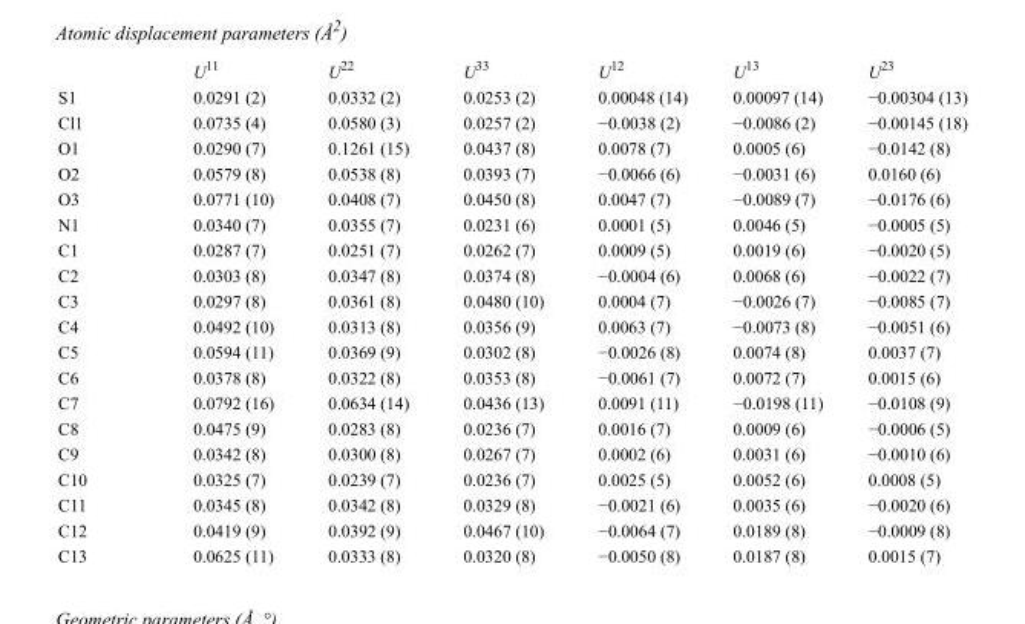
<table><thead><tr><td></td><td>U<sup>11</sup></td><td>U<sup>22</sup></td><td>U<sup>33</sup></td><td>U<sup>12</sup></td><td>U<sup>13</sup></td><td>U<sup>23</sup></td></tr></thead><tbody><tr><td>S1</td><td>0.0291 (2)</td><td>0.0332 (2)</td><td>0.0253 (2)</td><td>0.00048 (14)</td><td>0.00097 (14)</td><td>−0.00304 (13)</td></tr><tr><td>Cl1</td><td>0.0735 (4)</td><td>0.0580 (3)</td><td>0.0257 (2)</td><td>−0.0038 (2)</td><td>−0.0086 (2)</td><td>−0.00145 (18)</td></tr><tr><td>O1</td><td>0.0290 (7)</td><td>0.1261 (15)</td><td>0.0437 (8)</td><td>0.0078 (7)</td><td>0.0005 (6)</td><td>−0.0142 (8)</td></tr><tr><td>O2</td><td>0.0579 (8)</td><td>0.0538 (8)</td><td>0.0393 (7)</td><td>−0.0066 (6)</td><td>−0.0031 (6)</td><td>0.0160 (6)</td></tr><tr><td>O3</td><td>0.0771 (10)</td><td>0.0408 (7)</td><td>0.0450 (8)</td><td>0.0047 (7)</td><td>−0.0089 (7)</td><td>−0.0176 (6)</td></tr><tr><td>N1</td><td>0.0340 (7)</td><td>0.0355 (7)</td><td>0.0231 (6)</td><td>0.0001 (5)</td><td>0.0046 (5)</td><td>−0.0005 (5)</td></tr><tr><td>C1</td><td>0.0287 (7)</td><td>0.0251 (7)</td><td>0.0262 (7)</td><td>0.0009 (5)</td><td>0.0019 (6)</td><td>−0.0020 (5)</td></tr><tr><td>C2</td><td>0.0303 (8)</td><td>0.0347 (8)</td><td>0.0374 (8)</td><td>−0.0004 (6)</td><td>0.0068 (6)</td><td>−0.0022 (7)</td></tr><tr><td>C3</td><td>0.0297 (8)</td><td>0.0361 (8)</td><td>0.0480 (10)</td><td>0.0004 (7)</td><td>−0.0026 (7)</td><td>−0.0085 (7)</td></tr><tr><td>C4</td><td>0.0492 (10)</td><td>0.0313 (8)</td><td>0.0356 (9)</td><td>0.0063 (7)</td><td>−0.0073 (8)</td><td>−0.0051 (6)</td></tr><tr><td>C5</td><td>0.0594 (11)</td><td>0.0369 (9)</td><td>0.0302 (8)</td><td>−0.0026 (8)</td><td>0.0074 (8)</td><td>0.0037 (7)</td></tr><tr><td>C6</td><td>0.0378 (8)</td><td>0.0322 (8)</td><td>0.0353 (8)</td><td>−0.0061 (7)</td><td>0.0072 (7)</td><td>0.0015 (6)</td></tr><tr><td>C7</td><td>0.0792 (16)</td><td>0.0634 (14)</td><td>0.0436 (13)</td><td>0.0091 (11)</td><td>−0.0198 (11)</td><td>−0.0108 (9)</td></tr><tr><td>C8</td><td>0.0475 (9)</td><td>0.0283 (8)</td><td>0.0236 (7)</td><td>0.0016 (7)</td><td>0.0009 (6)</td><td>−0.0006 (5)</td></tr><tr><td>C9</td><td>0.0342 (8)</td><td>0.0300 (8)</td><td>0.0267 (7)</td><td>0.0002 (6)</td><td>0.0031 (6)</td><td>−0.0010 (6)</td></tr><tr><td>C10</td><td>0.0325 (7)</td><td>0.0239 (7)</td><td>0.0236 (7)</td><td>0.0025 (5)</td><td>0.0052 (6)</td><td>0.0008 (5)</td></tr><tr><td>C11</td><td>0.0345 (8)</td><td>0.0342 (8)</td><td>0.0329 (8)</td><td>−0.0021 (6)</td><td>0.0035 (6)</td><td>−0.0020 (6)</td></tr><tr><td>C12</td><td>0.0419 (9)</td><td>0.0392 (9)</td><td>0.0467 (10)</td><td>−0.0064 (7)</td><td>0.0189 (8)</td><td>−0.0009 (8)</td></tr><tr><td>C13</td><td>0.0625 (11)</td><td>0.0333 (8)</td><td>0.0320 (8)</td><td>−0.0050 (8)</td><td>0.0187 (8)</td><td>0.0015 (7)</td></tr></tbody></table>